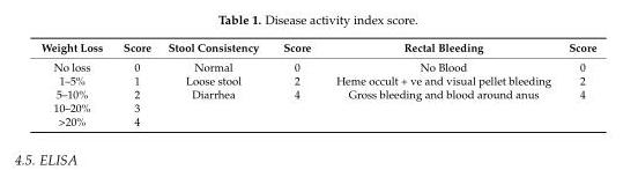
<table><thead><tr><td>Weight Loss</td><td>Score</td><td>Stool Consistency</td><td>Score</td><td>Rectal Bleeding</td><td>Score</td></tr></thead><tbody><tr><td>No loss</td><td>0</td><td>Normal</td><td>0</td><td>No Blood</td><td>0</td></tr><tr><td>1–5%</td><td>1</td><td>Loose stool</td><td>2</td><td>Heme occult + ve and visual pellet bleeding</td><td>2</td></tr><tr><td>5–10%</td><td>2</td><td>Diarrhea</td><td>4</td><td>Gross bleeding and blood around anus</td><td>4</td></tr><tr><td>10–20%</td><td>3</td><td></td><td></td><td></td><td></td></tr><tr><td>&gt;20%</td><td>4</td><td></td><td></td><td></td><td></td></tr></tbody></table>